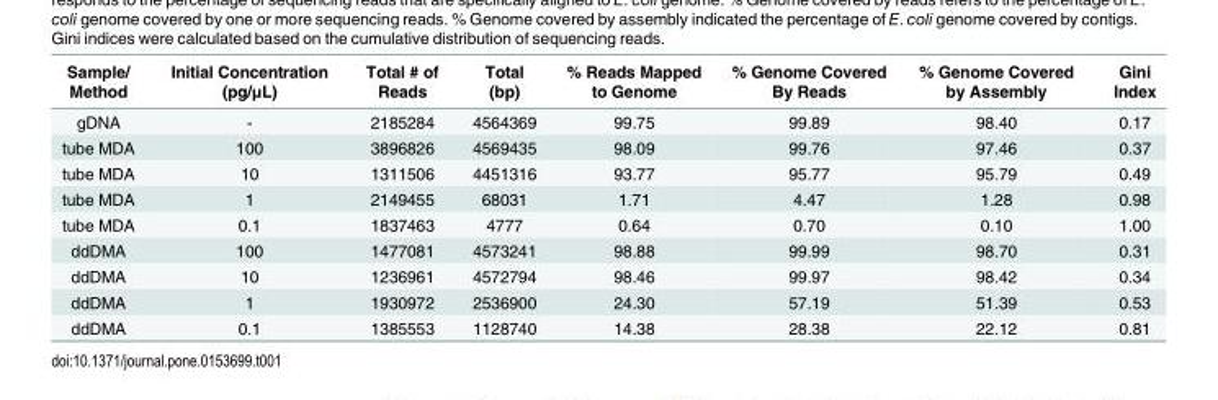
<table><thead><tr><td>Sample/ Method</td><td>Initial Concentration (pg/μL)</td><td>Total # of Reads</td><td>Total (bp)</td><td>% Reads Mapped to Genome</td><td>% Genome Covered By Reads</td><td>% Genome Covered by Assembly</td><td>Gini Index</td></tr></thead><tbody><tr><td>gDNA</td><td>-</td><td>2185284</td><td>4564369</td><td>99.75</td><td>99.89</td><td>98.40</td><td>0.17</td></tr><tr><td>tube MDA</td><td>100</td><td>3896826</td><td>4569435</td><td>98.09</td><td>99.76</td><td>97.46</td><td>0.37</td></tr><tr><td>tube MDA</td><td>10</td><td>1311506</td><td>4451316</td><td>93.77</td><td>95.77</td><td>95.79</td><td>0.49</td></tr><tr><td>tube MDA</td><td>1</td><td>2149455</td><td>68031</td><td>1.71</td><td>4.47</td><td>1.28</td><td>0.98</td></tr><tr><td>tube MDA</td><td>0.1</td><td>1837463</td><td>4777</td><td>0.64</td><td>0.70</td><td>0.10</td><td>1.00</td></tr><tr><td>ddDMA</td><td>100</td><td>1477081</td><td>4573241</td><td>98.88</td><td>99.99</td><td>98.70</td><td>0.31</td></tr><tr><td>ddDMA</td><td>10</td><td>1236961</td><td>4572794</td><td>98.46</td><td>99.97</td><td>98.42</td><td>0.34</td></tr><tr><td>ddDMA</td><td>1</td><td>1930972</td><td>2536900</td><td>24.30</td><td>57.19</td><td>51.39</td><td>0.53</td></tr><tr><td>ddDMA</td><td>0.1</td><td>1385553</td><td>1128740</td><td>14.38</td><td>28.38</td><td>22.12</td><td>0.81</td></tr></tbody></table>